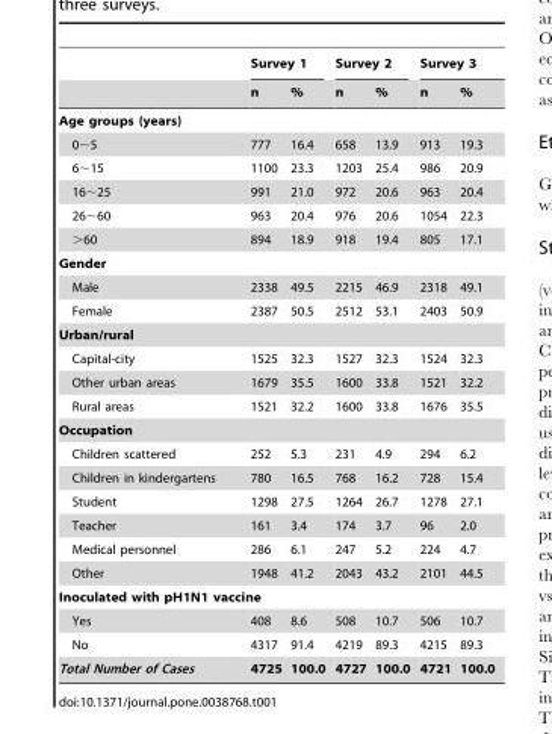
<table><thead><tr><td rowspan="2"></td><td colspan="2">Survey 1</td><td colspan="2">Survey 2</td><td colspan="2">Survey 3</td></tr><tr><td>n</td><td>%</td><td>n</td><td>%</td><td>n</td><td>%</td></tr></thead><tbody><tr><td colspan="7">Age groups (years)</td></tr><tr><td>0∼5</td><td>777</td><td>16.4</td><td>658</td><td>13.9</td><td>913</td><td>19.3</td></tr><tr><td>6∼15</td><td>1100</td><td>23.3</td><td>1203</td><td>25.4</td><td>986</td><td>20.9</td></tr><tr><td>16∼25</td><td>991</td><td>21.0</td><td>972</td><td>20.6</td><td>963</td><td>20.4</td></tr><tr><td>26∼60</td><td>963</td><td>20.4</td><td>976</td><td>20.6</td><td>1054</td><td>22.3</td></tr><tr><td>&gt;60</td><td>894</td><td>18.9</td><td>918</td><td>19.4</td><td>805</td><td>17.1</td></tr><tr><td colspan="7">Gender</td></tr><tr><td>Male</td><td>2338</td><td>49.5</td><td>2215</td><td>46.9</td><td>2318</td><td>49.1</td></tr><tr><td>Female</td><td>2387</td><td>50.5</td><td>2512</td><td>53.1</td><td>2403</td><td>50.9</td></tr><tr><td colspan="7">Urban/rural</td></tr><tr><td>Capital-city</td><td>1525</td><td>32.3</td><td>1527</td><td>32.3</td><td>1524</td><td>32.3</td></tr><tr><td>Other urban areas</td><td>1679</td><td>35.5</td><td>1600</td><td>33.8</td><td>1521</td><td>32.2</td></tr><tr><td>Rural areas</td><td>1521</td><td>32.2</td><td>1600</td><td>33.8</td><td>1676</td><td>35.5</td></tr><tr><td colspan="7">Occupation</td></tr><tr><td>Children scattered</td><td>252</td><td>5.3</td><td>231</td><td>4.9</td><td>294</td><td>6.2</td></tr><tr><td>Children in kindergartens</td><td>780</td><td>16.5</td><td>768</td><td>16.2</td><td>728</td><td>15.4</td></tr><tr><td>Student</td><td>1298</td><td>27.5</td><td>1264</td><td>26.7</td><td>1278</td><td>27.1</td></tr><tr><td>Teacher</td><td>161</td><td>3.4</td><td>174</td><td>3.7</td><td>96</td><td>2.0</td></tr><tr><td>Medical personnel</td><td>286</td><td>6.1</td><td>247</td><td>5.2</td><td>224</td><td>4.7</td></tr><tr><td>Other</td><td>1948</td><td>41.2</td><td>2043</td><td>43.2</td><td>2101</td><td>44.5</td></tr><tr><td colspan="7">Inoculated with pH1N1 vaccine</td></tr><tr><td>Yes</td><td>408</td><td>8.6</td><td>508</td><td>10.7</td><td>506</td><td>10.7</td></tr><tr><td>No</td><td>4317</td><td>91.4</td><td>4219</td><td>89.3</td><td>4215</td><td>89.3</td></tr><tr><td>Total Number of Cases</td><td>4725</td><td>100.0</td><td>4727</td><td>100.0</td><td>4721</td><td>100.0</td></tr></tbody></table>